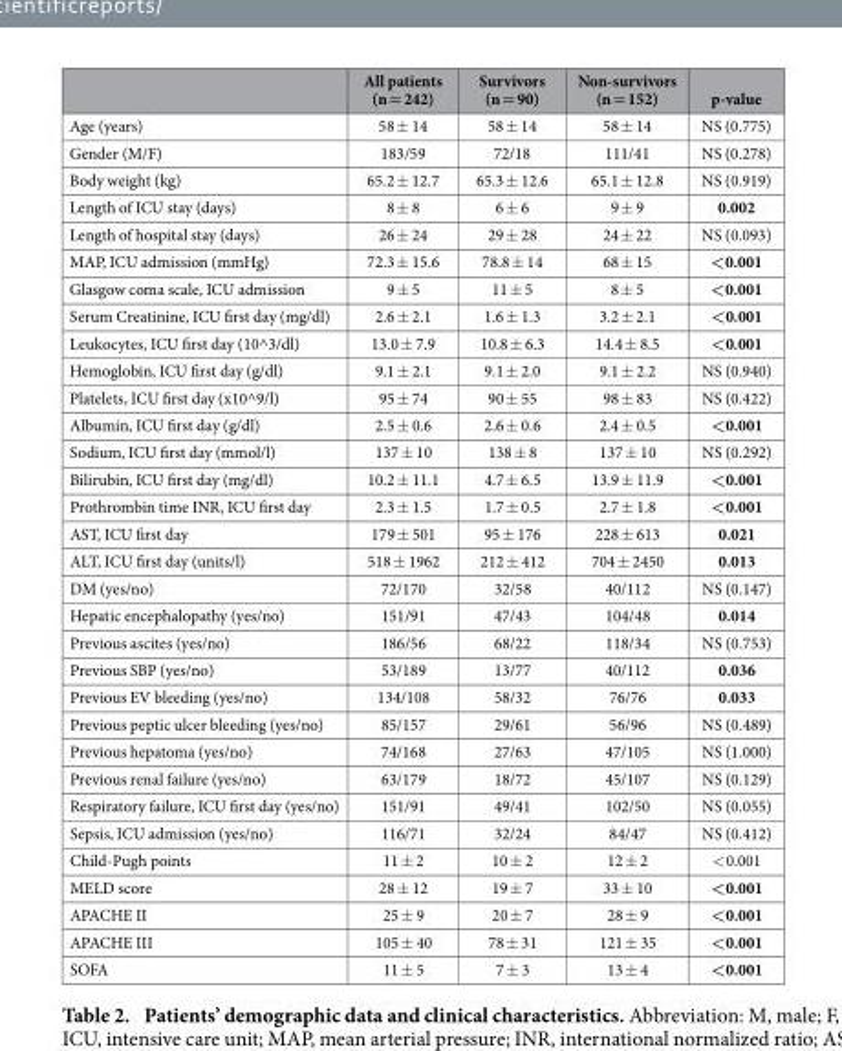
<table><thead><tr><td></td><td>All patients (n = 242)</td><td>Survivors (n = 90)</td><td>Non-survivors (n = 152)</td><td>p-value</td></tr></thead><tbody><tr><td>Age (years)</td><td>58 ± 14</td><td>58 ± 14</td><td>58 ± 14</td><td>NS (0.775)</td></tr><tr><td>Gender (M/F)</td><td>183/59</td><td>72/18</td><td>111/41</td><td>NS (0.278)</td></tr><tr><td>Body weight (kg)</td><td>65.2 ± 12.7</td><td>65.3 ± 12.6</td><td>65.1 ± 12.8</td><td>NS (0.919)</td></tr><tr><td>Length of ICU stay (days)</td><td>8 ± 8</td><td>6 ± 6</td><td>9 ± 9</td><td>0.002</td></tr><tr><td>Length of hospital stay (days)</td><td>26 ± 24</td><td>29 ± 28</td><td>24 ± 22</td><td>NS (0.093)</td></tr><tr><td>MAP, ICU admission (mmHg)</td><td>72.3 ± 15.6</td><td>78.8 ± 14</td><td>68 ± 15</td><td>&lt;0.001</td></tr><tr><td>Glasgow coma scale, ICU admission</td><td>9 ± 5</td><td>11 ± 5</td><td>8 ± 5</td><td>&lt;0.001</td></tr><tr><td>Serum Creatinine, ICU first day (mg/dl)</td><td>2.6 ± 2.1</td><td>1.6 ± 1.3</td><td>3.2 ± 2.1</td><td>&lt;0.001</td></tr><tr><td>Leukocytes, ICU first day (10^3/dl)</td><td>13.0 ± 7.9</td><td>10.8 ± 6.3</td><td>14.4 ± 8.5</td><td>&lt;0.001</td></tr><tr><td>Hemoglobin, ICU first day (g/dl)</td><td>9.1 ± 2.1</td><td>9.1 ± 2.0</td><td>9.1 ± 2.2</td><td>NS (0.940)</td></tr><tr><td>Platelets, ICU first day (x10^9/l)</td><td>95 ± 74</td><td>90 ± 55</td><td>98 ± 83</td><td>NS (0.422)</td></tr><tr><td>Albumin, ICU first day (g/dl)</td><td>2.5 ± 0.6</td><td>2.6 ± 0.6</td><td>2.4 ± 0.5</td><td>&lt;0.001</td></tr><tr><td>Sodium, ICU first day (mmol/l)</td><td>137 ± 10</td><td>138 ± 8</td><td>137 ± 10</td><td>NS (0.292)</td></tr><tr><td>Bilirubin, ICU first day (mg/dl)</td><td>10.2 ± 11.1</td><td>4.7 ± 6.5</td><td>13.9 ± 11.9</td><td>&lt;0.001</td></tr><tr><td>Prothrombin time INR, ICU first day</td><td>2.3 ± 1.5</td><td>1.7 ± 0.5</td><td>2.7 ± 1.8</td><td>&lt;0.001</td></tr><tr><td>AST, ICU first day</td><td>179 ± 501</td><td>95 ± 176</td><td>228 ± 613</td><td>0.021</td></tr><tr><td>ALT, ICU first day (units/l)</td><td>518 ± 1962</td><td>212 ± 412</td><td>704 ± 2450</td><td>0.013</td></tr><tr><td>DM (yes/no)</td><td>72/170</td><td>32/58</td><td>40/112</td><td>NS (0.147)</td></tr><tr><td>Hepatic encephalopathy (yes/no)</td><td>151/91</td><td>47/43</td><td>104/48</td><td>0.014</td></tr><tr><td>Previous ascites (yes/no)</td><td>186/56</td><td>68/22</td><td>118/34</td><td>NS (0.753)</td></tr><tr><td>Previous SBP (yes/no)</td><td>53/189</td><td>13/77</td><td>40/112</td><td>0.036</td></tr><tr><td>Previous EV bleeding (yes/no)</td><td>134/108</td><td>58/32</td><td>76/76</td><td>0.033</td></tr><tr><td>Previous peptic ulcer bleeding (yes/no)</td><td>85/157</td><td>29/61</td><td>56/96</td><td>NS (0.489)</td></tr><tr><td>Previous hepatoma (yes/no)</td><td>74/168</td><td>27/63</td><td>47/105</td><td>NS (1.000)</td></tr><tr><td>Previous renal failure (yes/no)</td><td>63/179</td><td>18/72</td><td>45/107</td><td>NS (0.129)</td></tr><tr><td>Respiratory failure, ICU first day (yes/no)</td><td>151/91</td><td>49/41</td><td>102/50</td><td>NS (0.055)</td></tr><tr><td>Sepsis, ICU admission (yes/no)</td><td>116/71</td><td>32/24</td><td>84/47</td><td>NS (0.412)</td></tr><tr><td>Child-Pugh points</td><td>11 ± 2</td><td>10 ± 2</td><td>12 ± 2</td><td>&lt; 0.001</td></tr><tr><td>MELD score</td><td>28 ± 12</td><td>19 ± 7</td><td>33 ± 10</td><td>&lt;0.001</td></tr><tr><td>APACHE II</td><td>25 ± 9</td><td>20 ± 7</td><td>28 ± 9</td><td>&lt;0.001</td></tr><tr><td>APACHE III</td><td>105 ± 40</td><td>78 ± 31</td><td>121 ± 35</td><td>&lt;0.001</td></tr><tr><td>SOFA</td><td>11 ± 5</td><td>7 ± 3</td><td>13 ± 4</td><td>&lt;0.001</td></tr></tbody></table>